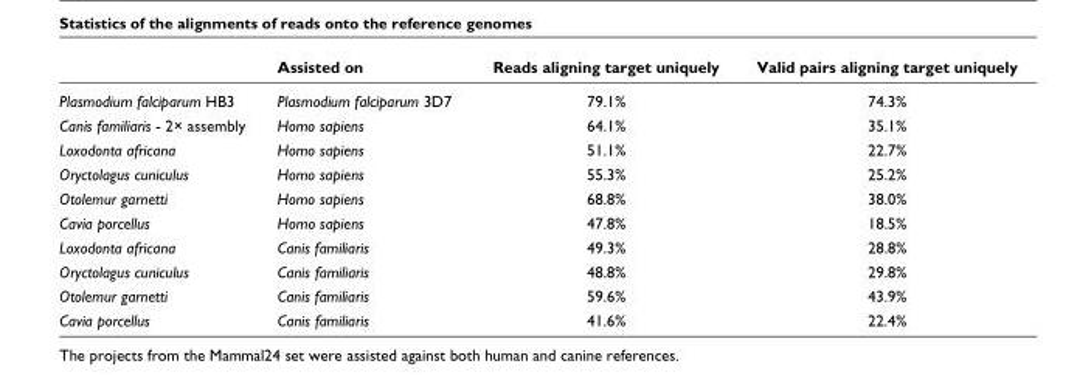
<table><thead><tr><td></td><td>Assisted on</td><td>Reads aligning target uniquely</td><td>Valid pairs aligning target uniquely</td></tr></thead><tbody><tr><td>Plasmodium falciparum HB3</td><td>Plasmodium falciparum 3D7</td><td>79.1%</td><td>74.3%</td></tr><tr><td>Canis familiaris - 2× assembly</td><td>Homo sapiens</td><td>64.1%</td><td>35.1%</td></tr><tr><td>Loxodonta africana</td><td>Homo sapiens</td><td>51.1%</td><td>22.7%</td></tr><tr><td>Oryctolagus cuniculus</td><td>Homo sapiens</td><td>55.3%</td><td>25.2%</td></tr><tr><td>Otolemur garnetti</td><td>Homo sapiens</td><td>68.8%</td><td>38.0%</td></tr><tr><td>Cavia porcellus</td><td>Homo sapiens</td><td>47.8%</td><td>18.5%</td></tr><tr><td>Loxodonta africana</td><td>Canis familiaris</td><td>49.3%</td><td>28.8%</td></tr><tr><td>Oryctolagus cuniculus</td><td>Canis familiaris</td><td>48.8%</td><td>29.8%</td></tr><tr><td>Otolemur garnetti</td><td>Canis familiaris</td><td>59.6%</td><td>43.9%</td></tr><tr><td>Cavia porcellus</td><td>Canis familiaris</td><td>41.6%</td><td>22.4%</td></tr></tbody></table>